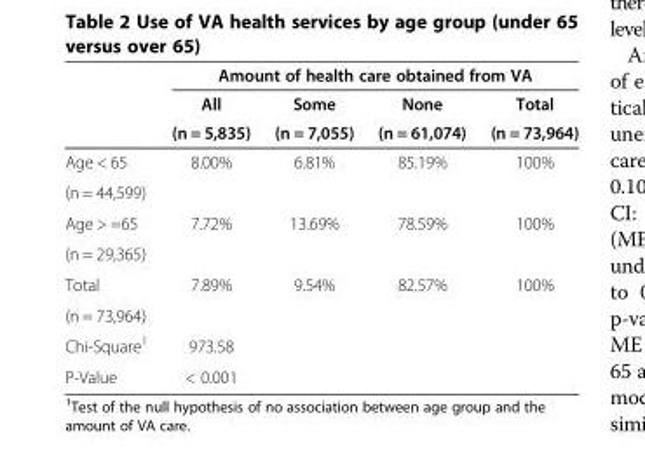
<table><thead><tr><td rowspan="3"></td><td colspan="4">Amount of health care obtained from VA</td></tr><tr><td rowspan="2">All (n = 5,835)</td><td rowspan="2">Some (n = 7,055)</td><td rowspan="2">None (n = 61,074)</td><td rowspan="2">Total (n = 73,964)</td></tr><tr></tr></thead><tbody><tr><td>Age &lt; 65</td><td rowspan="2">8.00%</td><td rowspan="2">6.81%</td><td rowspan="2">85.19%</td><td rowspan="2">100%</td></tr><tr><td>(n = 44,599)</td></tr><tr><td>Age &gt; =65</td><td rowspan="2">7.72%</td><td rowspan="2">13.69%</td><td rowspan="2">78.59%</td><td rowspan="2">100%</td></tr><tr><td>(n = 29,365)</td></tr><tr><td>Total</td><td rowspan="2">7.89%</td><td rowspan="2">9.54%</td><td rowspan="2">82.57%</td><td rowspan="2">100%</td></tr><tr><td>(n = 73,964)</td></tr><tr><td>Chi-Square<sup>1</sup></td><td>973.58</td><td></td><td></td><td></td></tr><tr><td>P-Value</td><td>&lt; 0.001</td><td></td><td></td><td></td></tr></tbody></table>